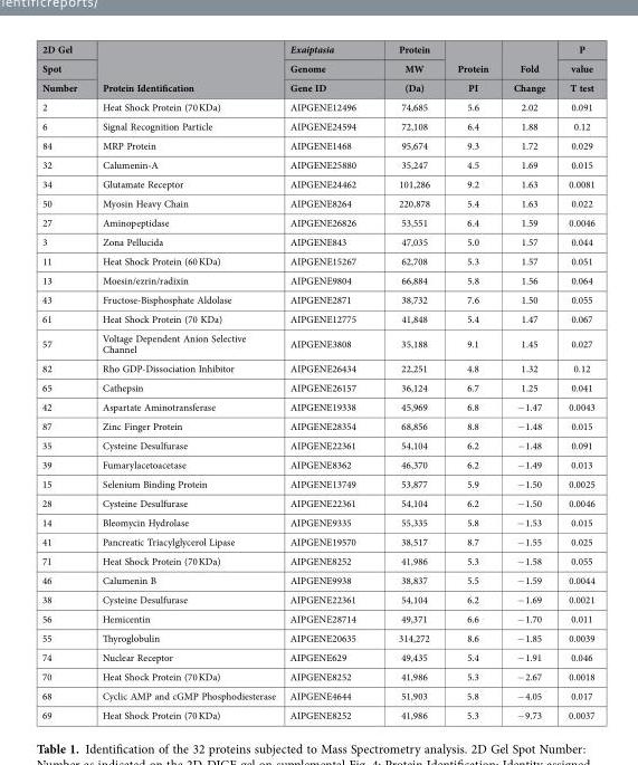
<table><thead><tr><td rowspan="3">2D Gel Spot Number</td><td rowspan="3">Protein Identification</td><td rowspan="3">Exaiptasia Genome Gene ID</td><td rowspan="3">Protein MW (Da)</td><td rowspan="3">Protein PI</td><td rowspan="3">Fold Change</td><td rowspan="3">P value T test</td></tr><tr></tr><tr></tr></thead><tbody><tr><td>2</td><td>Heat Shock Protein (70 KDa)</td><td>AIPGENE12496</td><td>74,685</td><td>5.6</td><td>2.02</td><td>0.091</td></tr><tr><td>6</td><td>Signal Recognition Particle</td><td>AIPGENE24594</td><td>72,108</td><td>6.4</td><td>1.88</td><td>0.12</td></tr><tr><td>84</td><td>MRP Protein</td><td>AIPGENE1468</td><td>95,674</td><td>9.3</td><td>1.72</td><td>0.029</td></tr><tr><td>32</td><td>Calumenin-A</td><td>AIPGENE25880</td><td>35,247</td><td>4.5</td><td>1.69</td><td>0.015</td></tr><tr><td>34</td><td>Glutamate Receptor</td><td>AIPGENE24462</td><td>101,286</td><td>9.2</td><td>1.63</td><td>0.0081</td></tr><tr><td>50</td><td>Myosin Heavy Chain</td><td>AIPGENE8264</td><td>220,878</td><td>5.4</td><td>1.63</td><td>0.022</td></tr><tr><td>27</td><td>Aminopeptidase</td><td>AIPGENE26826</td><td>53,551</td><td>6.4</td><td>1.59</td><td>0.0046</td></tr><tr><td>3</td><td>Zona Pellucida</td><td>AIPGENE843</td><td>47,035</td><td>5.0</td><td>1.57</td><td>0.044</td></tr><tr><td>11</td><td>Heat Shock Protein (60 KDa)</td><td>AIPGENE15267</td><td>62,708</td><td>5.3</td><td>1.57</td><td>0.051</td></tr><tr><td>13</td><td>Moesin/ezrin/radixin</td><td>AIPGENE9804</td><td>66,884</td><td>5.8</td><td>1.56</td><td>0.064</td></tr><tr><td>43</td><td>Fructose-Bisphosphate Aldolase</td><td>AIPGENE2871</td><td>38,732</td><td>7.6</td><td>1.50</td><td>0.055</td></tr><tr><td>61</td><td>Heat Shock Protein (70 KDa)</td><td>AIPGENE12775</td><td>41,848</td><td>5.4</td><td>1.47</td><td>0.067</td></tr><tr><td>57</td><td>Voltage Dependent Anion Selective Channel</td><td>AIPGENE3808</td><td>35,188</td><td>9.1</td><td>1.45</td><td>0.027</td></tr><tr><td>82</td><td>Rho GDP-Dissociation Inhibitor</td><td>AIPGENE26434</td><td>22,251</td><td>4.8</td><td>1.32</td><td>0.12</td></tr><tr><td>65</td><td>Cathepsin</td><td>AIPGENE26157</td><td>36,124</td><td>6.7</td><td>1.25</td><td>0.041</td></tr><tr><td>42</td><td>Aspartate Aminotransferase</td><td>AIPGENE19338</td><td>45,969</td><td>6.8</td><td>− 1.47</td><td>0.0043</td></tr><tr><td>87</td><td>Zinc Finger Protein</td><td>AIPGENE28354</td><td>68,856</td><td>8.8</td><td>− 1.48</td><td>0.015</td></tr><tr><td>35</td><td>Cysteine Desulfurase</td><td>AIPGENE22361</td><td>54,104</td><td>6.2</td><td>− 1.48</td><td>0.091</td></tr><tr><td>39</td><td>Fumarylacetoacetase</td><td>AIPGENE8362</td><td>46,370</td><td>6.2</td><td>− 1.49</td><td>0.013</td></tr><tr><td>15</td><td>Selenium Binding Protein</td><td>AIPGENE13749</td><td>53,877</td><td>5.9</td><td>− 1.50</td><td>0.0025</td></tr><tr><td>28</td><td>Cysteine Desulfurase</td><td>AIPGENE22361</td><td>54,104</td><td>6.2</td><td>− 1.50</td><td>0.0046</td></tr><tr><td>14</td><td>Bleomycin Hydrolase</td><td>AIPGENE9335</td><td>55,335</td><td>5.8</td><td>− 1.53</td><td>0.015</td></tr><tr><td>41</td><td>Pancreatic Triacylglycerol Lipase</td><td>AIPGENE19570</td><td>38,517</td><td>8.7</td><td>− 1.55</td><td>0.025</td></tr><tr><td>71</td><td>Heat Shock Protein (70 KDa)</td><td>AIPGENE8252</td><td>41,986</td><td>5.3</td><td>− 1.58</td><td>0.055</td></tr><tr><td>46</td><td>Calumenin B</td><td>AIPGENE9938</td><td>38,837</td><td>5.5</td><td>− 1.59</td><td>0.0044</td></tr><tr><td>38</td><td>Cysteine Desulfurase</td><td>AIPGENE22361</td><td>54,104</td><td>6.2</td><td>− 1.69</td><td>0.0021</td></tr><tr><td>56</td><td>Hemicentin</td><td>AIPGENE28714</td><td>49,371</td><td>6.6</td><td>− 1.70</td><td>0.011</td></tr><tr><td>55</td><td>Thyroglobulin</td><td>AIPGENE20635</td><td>314,272</td><td>8.6</td><td>− 1.85</td><td>0.0039</td></tr><tr><td>74</td><td>Nuclear Receptor</td><td>AIPGENE629</td><td>49,435</td><td>5.4</td><td>− 1.91</td><td>0.046</td></tr><tr><td>70</td><td>Heat Shock Protein (70 KDa)</td><td>AIPGENE8252</td><td>41,986</td><td>5.3</td><td>− 2.67</td><td>0.0018</td></tr><tr><td>68</td><td>Cyclic AMP and cGMP Phosphodiesterase</td><td>AIPGENE4644</td><td>51,903</td><td>5.8</td><td>− 4.05</td><td>0.017</td></tr><tr><td>69</td><td>Heat Shock Protein (70 KDa)</td><td>AIPGENE8252</td><td>41,986</td><td>5.3</td><td>− 9.73</td><td>0.0037</td></tr></tbody></table>